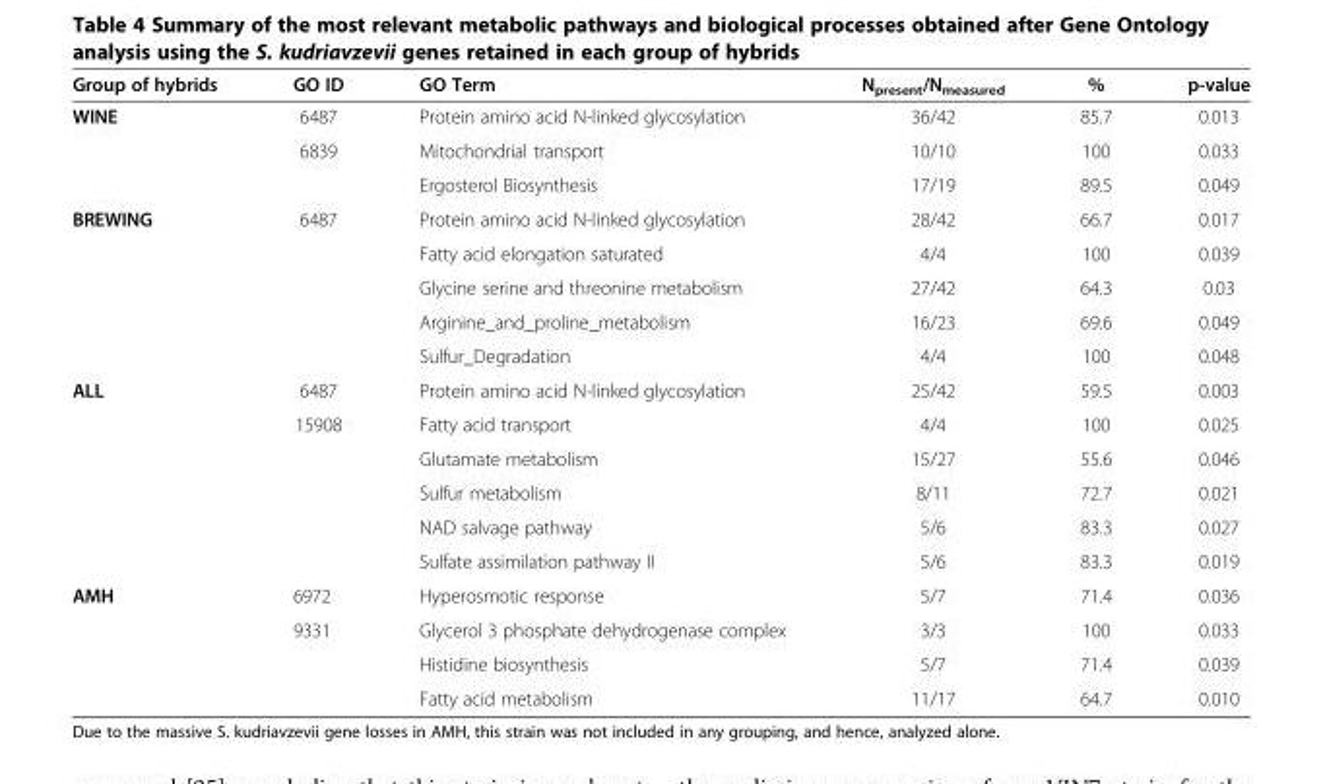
<table><thead><tr><td>Group of hybrids</td><td>GO ID</td><td>GO Term</td><td>N<sub>present</sub>/N<sub>measured</sub></td><td>%</td><td>p-value</td></tr></thead><tbody><tr><td rowspan="3">WINE</td><td>6487</td><td>Protein amino acid N-linked glycosylation</td><td>36/42</td><td>85.7</td><td>0.013</td></tr><tr><td>6839</td><td>Mitochondrial transport</td><td>10/10</td><td>100</td><td>0.033</td></tr><tr><td></td><td>Ergosterol Biosynthesis</td><td>17/19</td><td>89.5</td><td>0.049</td></tr><tr><td rowspan="5">BREWING</td><td>6487</td><td>Protein amino acid N-linked glycosylation</td><td>28/42</td><td>66.7</td><td>0.017</td></tr><tr><td></td><td>Fatty acid elongation saturated</td><td>4/4</td><td>100</td><td>0.039</td></tr><tr><td></td><td>Glycine serine and threonine metabolism</td><td>27/42</td><td>64.3</td><td>0.03</td></tr><tr><td></td><td>Arginine_and_proline_metabolism</td><td>16/23</td><td>69.6</td><td>0.049</td></tr><tr><td></td><td>Sulfur_Degradation</td><td>4/4</td><td>100</td><td>0.048</td></tr><tr><td rowspan="6">ALL</td><td>6487</td><td>Protein amino acid N-linked glycosylation</td><td>25/42</td><td>59.5</td><td>0.003</td></tr><tr><td>15908</td><td>Fatty acid transport</td><td>4/4</td><td>100</td><td>0.025</td></tr><tr><td></td><td>Glutamate metabolism</td><td>15/27</td><td>55.6</td><td>0.046</td></tr><tr><td></td><td>Sulfur metabolism</td><td>8/11</td><td>72.7</td><td>0.021</td></tr><tr><td></td><td>NAD salvage pathway</td><td>5/6</td><td>83.3</td><td>0.027</td></tr><tr><td></td><td>Sulfate assimilation pathway II</td><td>5/6</td><td>83.3</td><td>0.019</td></tr><tr><td rowspan="4">AMH</td><td>6972</td><td>Hyperosmotic response</td><td>5/7</td><td>71.4</td><td>0.036</td></tr><tr><td>9331</td><td>Glycerol 3 phosphate dehydrogenase complex</td><td>3/3</td><td>100</td><td>0.033</td></tr><tr><td></td><td>Histidine biosynthesis</td><td>5/7</td><td>71.4</td><td>0.039</td></tr><tr><td></td><td>Fatty acid metabolism</td><td>11/17</td><td>64.7</td><td>0.010</td></tr></tbody></table>